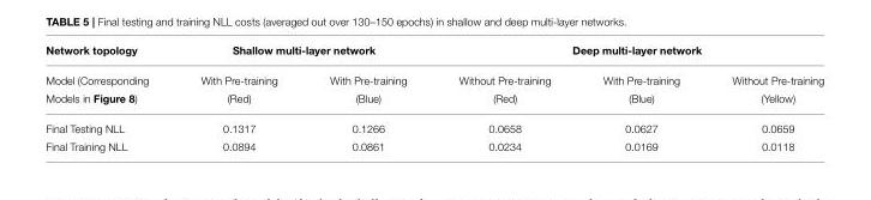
<table><thead><tr><td rowspan="2">Network topology Model (Corresponding</td><td colspan="2">Shallow multi-layer network</td><td colspan="3">Deep multi-layer network</td></tr><tr><td>With Pre-training</td><td>With Pre-training</td><td>Without Pre-training</td><td>With Pre-training</td><td>Without Pre-training</td></tr></thead><tbody><tr><td>Models in Figure 8)</td><td>(Red)</td><td>(Blue)</td><td>(Red)</td><td>(Blue)</td><td>(Yellow)</td></tr><tr><td>Final Testing NLL</td><td>0.1317</td><td>0.1266</td><td>0.0658</td><td>0.0627</td><td>0.0659</td></tr><tr><td>Final Training NLL</td><td>0.0894</td><td>0.0861</td><td>0.0234</td><td>0.0169</td><td>0.0118</td></tr></tbody></table>